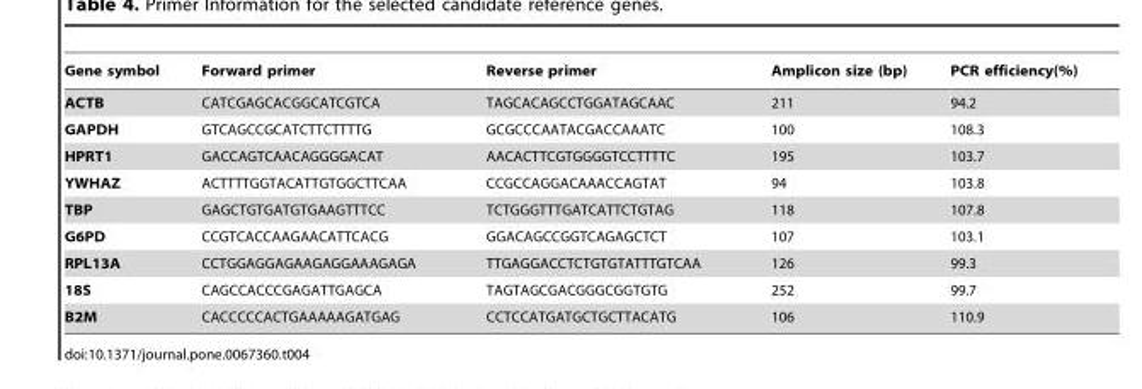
<table><thead><tr><td>Gene symbol</td><td>Forward primer</td><td>Reverse primer</td><td>Amplicon size (bp)</td><td>PCR efficiency(%)</td></tr></thead><tbody><tr><td>ACTB</td><td>CATCGAGCACGGCATCGTCA</td><td>TAGCACAGCCTGGATAGCAAC</td><td>211</td><td>94.2</td></tr><tr><td>GAPDH</td><td>GTCAGCCGCATCTTCTTTTG</td><td>GCGCCCAATACGACCAAATC</td><td>100</td><td>108.3</td></tr><tr><td>HPRT1</td><td>GACCAGTCAACAGGGGACAT</td><td>AACACTTCGTGGGGTCCTTTTC</td><td>195</td><td>103.7</td></tr><tr><td>YWHAZ</td><td>ACTTTTGGTACATTGTGGCTTCAA</td><td>CCGCCAGGACAAACCAGTAT</td><td>94</td><td>103.8</td></tr><tr><td>TBP</td><td>GAGCTGTGATGTGAAGTTTCC</td><td>TCTGGGTTTGATCATTCTGTAG</td><td>118</td><td>107.8</td></tr><tr><td>G6PD</td><td>CCGTCACCAAGAACATTCACG</td><td>GGACAGCCGGTCAGAGCTCT</td><td>107</td><td>103.1</td></tr><tr><td>RPL13A</td><td>CCTGGAGGAGAAGAGGAAAGAGA</td><td>TTGAGGACCTCTGTGTATTTGTCAA</td><td>126</td><td>99.3</td></tr><tr><td>18S</td><td>CAGCCACCCGAGATTGAGCA</td><td>TAGTAGCGACGGGCGGTGTG</td><td>252</td><td>99.7</td></tr><tr><td>B2M</td><td>CACCCCCACTGAAAAAGATGAG</td><td>CCTCCATGATGCTGCTTACATG</td><td>106</td><td>110.9</td></tr></tbody></table>